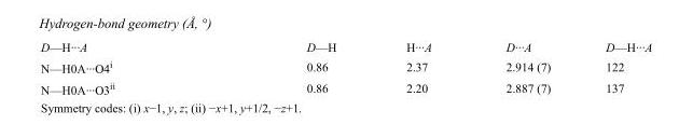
<table><tbody><tr><td>D—H···A</td><td>D—H</td><td>H···A</td><td>D···A</td><td>D—H···A</td></tr><tr><td>N—H0A···O4<sup>i</sup></td><td>0.86</td><td>2.37</td><td>2.914 (7)</td><td>122</td></tr><tr><td>N—H0A···O3<sup>ii</sup></td><td>0.86</td><td>2.20</td><td>2.887 (7)</td><td>137</td></tr></tbody></table>